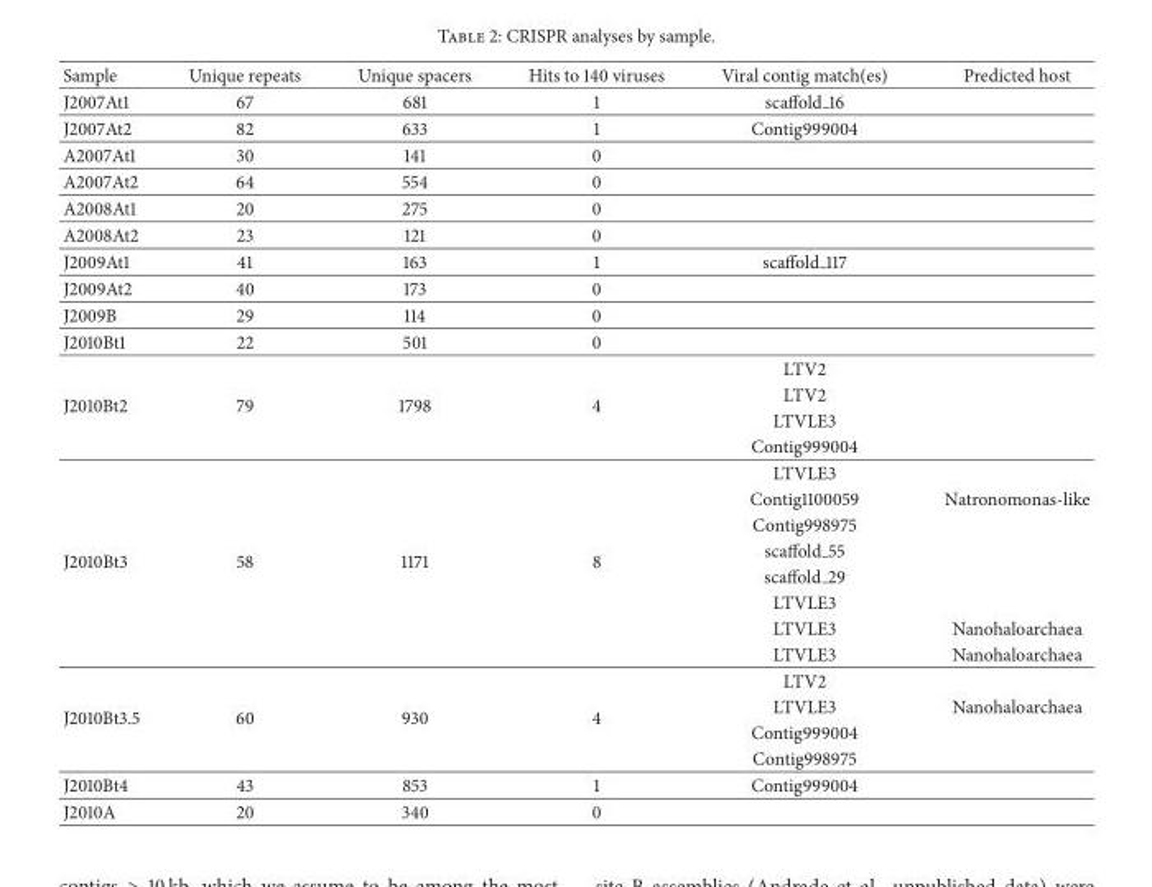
<table><thead><tr><td>Sample</td><td>Unique repeats</td><td>Unique spacers</td><td>Hits to 140 viruses</td><td>Viral contig match(es)</td><td>Predicted host</td></tr></thead><tbody><tr><td>J2007At1</td><td>67</td><td>681</td><td>1</td><td>scaffold 16</td><td></td></tr><tr><td>J2007At2</td><td>82</td><td>633</td><td>1</td><td>Contig999004</td><td></td></tr><tr><td>A2007At1</td><td>30</td><td>141</td><td>0</td><td></td><td></td></tr><tr><td>A2007At2</td><td>64</td><td>554</td><td>0</td><td></td><td></td></tr><tr><td>A2008At1</td><td>20</td><td>275</td><td>0</td><td></td><td></td></tr><tr><td>A2008At2</td><td>23</td><td>121</td><td>0</td><td></td><td></td></tr><tr><td>J2009At1</td><td>41</td><td>163</td><td>1</td><td>scaffold 117</td><td></td></tr><tr><td>J2009At2</td><td>40</td><td>173</td><td>0</td><td></td><td></td></tr><tr><td>J2009B</td><td>29</td><td>114</td><td>0</td><td></td><td></td></tr><tr><td>J2010Bt1</td><td>22</td><td>501</td><td>0</td><td></td><td></td></tr><tr><td rowspan="4">J2010Bt2</td><td rowspan="4">79</td><td rowspan="4">1798</td><td rowspan="4">4</td><td>LTV2</td><td></td></tr><tr><td>LTV2</td><td></td></tr><tr><td>LTVLE3</td><td></td></tr><tr><td>Contig999004</td><td></td></tr><tr><td rowspan="8">J2010Bt3</td><td rowspan="8">58</td><td rowspan="8">1171</td><td rowspan="8">8</td><td>LTVLE3</td><td></td></tr><tr><td>Contig1100059</td><td>Natronomonas-like</td></tr><tr><td>Contig998975</td><td></td></tr><tr><td>scaffold 55</td><td></td></tr><tr><td>scaffold 29</td><td></td></tr><tr><td>LTVLE3</td><td></td></tr><tr><td>LTVLE3</td><td>Nanohaloarchaea</td></tr><tr><td>LTVLE3</td><td>Nanohaloarchaea</td></tr><tr><td rowspan="4">J2010Bt3.5</td><td rowspan="4">60</td><td rowspan="4">930</td><td rowspan="4">4</td><td>LTV2</td><td></td></tr><tr><td>LTVLE3</td><td>Nanohaloarchaea</td></tr><tr><td>Contig999004</td><td></td></tr><tr><td>Contig998975</td><td></td></tr><tr><td>J2010Bt4</td><td>43</td><td>853</td><td>1</td><td>Contig999004</td><td></td></tr><tr><td>J2010A</td><td>20</td><td>340</td><td>0</td><td></td><td></td></tr></tbody></table>